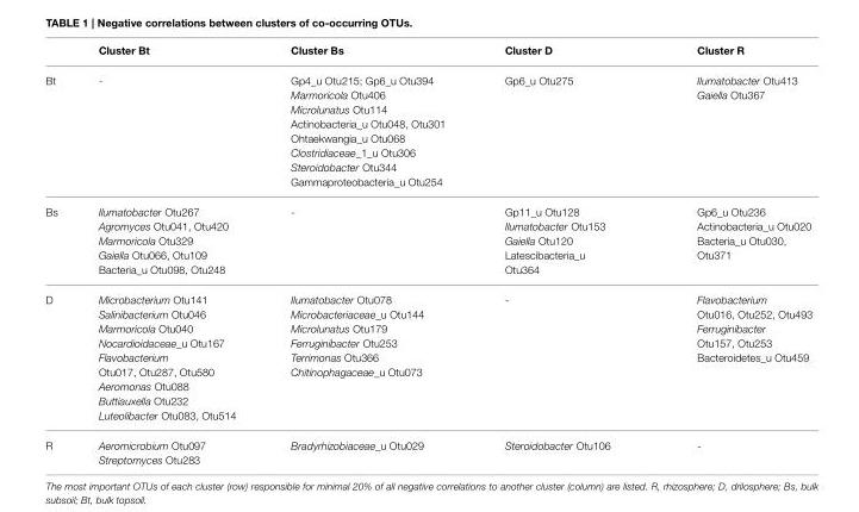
<table><thead><tr><td></td><td>Cluster Bt</td><td>Cluster Bs</td><td>Cluster D</td><td>Cluster R</td></tr></thead><tbody><tr><td>Bt</td><td>-</td><td>Gp4_u Otu215; Gp6_u Otu394 Marmoricola Otu406 Microlunatus Otu114 Actinobacteria_u Otu048, Otu301 Ohtaekwangia_u Otu068 Clostridiaceae_1_u Otu306 Steroidobacter Otu344 Gammaproteobacteria_u Otu254</td><td>Gp6_u Otu275</td><td>Ilumatobacter Otu413 Gaiella Otu367</td></tr><tr><td>Bs</td><td>Ilumatobacter Otu267 Agromyces Otu041, Otu420 Marmoricola Otu329 Gaiella Otu066, Otu109 Bacteria_u Otu098, Otu248</td><td>-</td><td>Gp11_u Otu128 Ilumatobacter Otu153 Gaiella Otu120 Latescibacteria_u Otu364</td><td>Gp6_u Otu236 Actinobacteria_u Otu020 Bacteria_u Otu030, Otu371</td></tr><tr><td>D</td><td>Microbacterium Otu141 Salinibacterium Otu046 Marmoricola Otu040 Nocardioidaceae_u Otu167 Flavobacterium Otu017, Otu287, Otu580 Aeromonas Otu088 Buttiauxella Otu232 Luteolibacter Otu083, Otu514</td><td>Ilumatobacter Otu078 Microbacteriaceae_u Otu144 Microlunatus Otu179 Ferruginibacter Otu253 Terrimonas Otu366 Chitinophagaceae_u Otu073</td><td>-</td><td>Flavobacterium Otu016, Otu252, Otu493 Ferruginibacter Otu157, Otu253 Bacteroidetes_u Otu459</td></tr><tr><td>R</td><td>Aeromicrobium Otu097 Streptomyces Otu283</td><td>Bradyrhizobiaceae_u Otu029</td><td>Steroidobacter Otu106</td><td>-</td></tr></tbody></table>